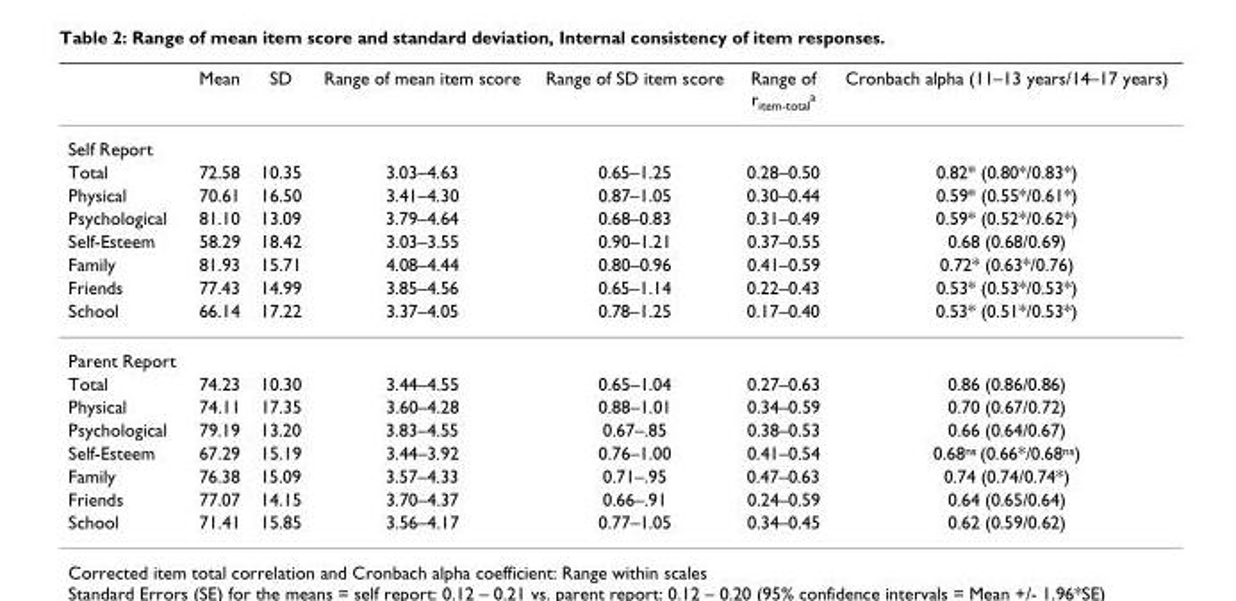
<table><thead><tr><td></td><td>Mean</td><td>SD</td><td>Range of mean item score</td><td>Range of SD item score</td><td>Range of r<sub>item-total</sub><sup>a</sup></td><td>Cronbach alpha (11–13 years/14–17 years)</td></tr></thead><tbody><tr><td colspan="7">Self Report</td></tr><tr><td>Total</td><td>72.58</td><td>10.35</td><td>3.03–4.63</td><td>0.65–1.25</td><td>0.28–0.50</td><td>0.82* (0.80*/0.83*)</td></tr><tr><td>Physical</td><td>70.61</td><td>16.50</td><td>3.41–4.30</td><td>0.87–1.05</td><td>0.30–0.44</td><td>0.59* (0.55*/0.61*)</td></tr><tr><td>Psychological</td><td>81.10</td><td>13.09</td><td>3.79–4.64</td><td>0.68–0.83</td><td>0.31–0.49</td><td>0.59* (0.52*/0.62*)</td></tr><tr><td>Self-Esteem</td><td>58.29</td><td>18.42</td><td>3.03–3.55</td><td>0.90–1.21</td><td>0.37–0.55</td><td>0.68 (0.68/0.69)</td></tr><tr><td>Family</td><td>81.93</td><td>15.71</td><td>4.08–4.44</td><td>0.80–0.96</td><td>0.41–0.59</td><td>0.72* (0.63*/0.76)</td></tr><tr><td>Friends</td><td>77.43</td><td>14.99</td><td>3.85–4.56</td><td>0.65–1.14</td><td>0.22–0.43</td><td>0.53* (0.53*/0.53*)</td></tr><tr><td>School</td><td>66.14</td><td>17.22</td><td>3.37–4.05</td><td>0.78–1.25</td><td>0.17–0.40</td><td>0.53* (0.51*/0.53*)</td></tr><tr><td colspan="7">Parent Report</td></tr><tr><td>Total</td><td>74.23</td><td>10.30</td><td>3.44–4.55</td><td>0.65–1.04</td><td>0.27–0.63</td><td>0.86 (0.86/0.86)</td></tr><tr><td>Physical</td><td>74.11</td><td>17.35</td><td>3.60–4.28</td><td>0.88–1.01</td><td>0.34–0.59</td><td>0.70 (0.67/0.72)</td></tr><tr><td>Psychological</td><td>79.19</td><td>13.20</td><td>3.83–4.55</td><td>0.67–.85</td><td>0.38–0.53</td><td>0.66 (0.64/0.67)</td></tr><tr><td>Self-Esteem</td><td>67.29</td><td>15.19</td><td>3.44–3.92</td><td>0.76–1.00</td><td>0.41–0.54</td><td>0.68<sup>ns</sup> (0.66*/0.68<sup>ns</sup>)</td></tr><tr><td>Family</td><td>76.38</td><td>15.09</td><td>3.57–4.33</td><td>0.71–.95</td><td>0.47–0.63</td><td>0.74 (0.74/0.74*)</td></tr><tr><td>Friends</td><td>77.07</td><td>14.15</td><td>3.70–4.37</td><td>0.66–.91</td><td>0.24–0.59</td><td>0.64 (0.65/0.64)</td></tr><tr><td>School</td><td>71.41</td><td>15.85</td><td>3.56–4.17</td><td>0.77–1.05</td><td>0.34–0.45</td><td>0.62 (0.59/0.62)</td></tr></tbody></table>